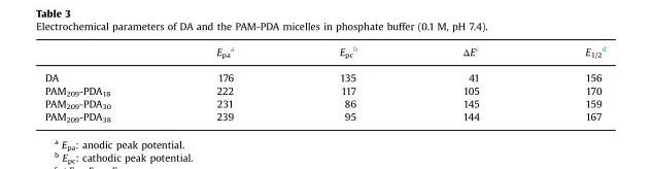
<table><thead><tr><td></td><td>E<sub>pa</sub> <sup>a</sup></td><td>E<sub>pc</sub> <sup>b</sup></td><td>ΔE<sup>c</sup></td><td>E<sub>1/2</sub> <sup>d</sup></td></tr></thead><tbody><tr><td>DA</td><td>176</td><td>135</td><td>41</td><td>156</td></tr><tr><td>PAM<sub>209</sub>-PDA<sub>18</sub></td><td>222</td><td>117</td><td>105</td><td>170</td></tr><tr><td>PAM<sub>209</sub>-PDA<sub>30</sub></td><td>231</td><td>86</td><td>145</td><td>159</td></tr><tr><td>PAM<sub>209</sub>-PDA<sub>38</sub></td><td>239</td><td>95</td><td>144</td><td>167</td></tr></tbody></table>